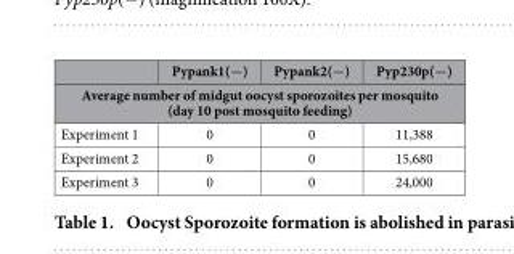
<table><thead><tr><td></td><td>Pypank1(−)</td><td>Pypank2(−)</td><td>Pyp230p(−)</td></tr><tr><td colspan="4">Average number of midgut oocyst sporozoites per mosquito (day 10 post mosquito feeding)</td></tr></thead><tbody><tr><td>Experiment 1</td><td>0</td><td>0</td><td>11,388</td></tr><tr><td>Experiment 2</td><td>0</td><td>0</td><td>15,680</td></tr><tr><td>Experiment 3</td><td>0</td><td>0</td><td>24,000</td></tr></tbody></table>